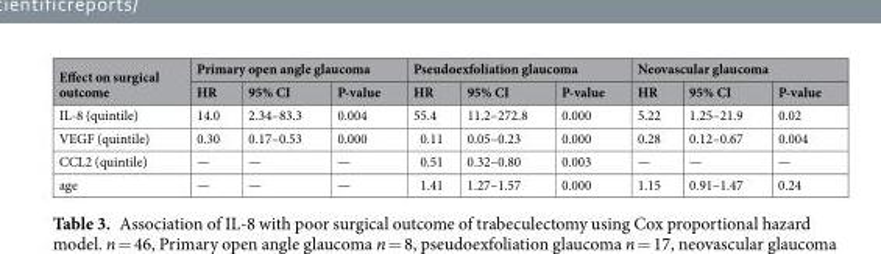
<table><thead><tr><td rowspan="2">Effect on surgical outcome</td><td colspan="3">Primary open angle glaucoma</td><td colspan="3">Pseudoexfoliation glaucoma</td><td colspan="3">Neovascular glaucoma</td></tr><tr><td>HR</td><td>95% CI</td><td>P-value</td><td>HR</td><td>95% CI</td><td>P-value</td><td>HR</td><td>95% CI</td><td>P-value</td></tr></thead><tbody><tr><td>IL-8 (quintile)</td><td>14.0</td><td>2.34–83.3</td><td>0.004</td><td>55.4</td><td>11.2–272.8</td><td>0.000</td><td>5.22</td><td>1.25–21.9</td><td>0.02</td></tr><tr><td>VEGF (quintile)</td><td>0.30</td><td>0.17–0.53</td><td>0.000</td><td>0.11</td><td>0.05–0.23</td><td>0.000</td><td>0.28</td><td>0.12–0.67</td><td>0.004</td></tr><tr><td>CCL2 (quintile)</td><td>—</td><td>—</td><td>—</td><td>0.51</td><td>0.32–0.80</td><td>0.003</td><td>—</td><td>—</td><td>—</td></tr><tr><td>age</td><td>—</td><td>—</td><td>—</td><td>1.41</td><td>1.27–1.57</td><td>0.000</td><td>1.15</td><td>0.91–1.47</td><td>0.24</td></tr></tbody></table>